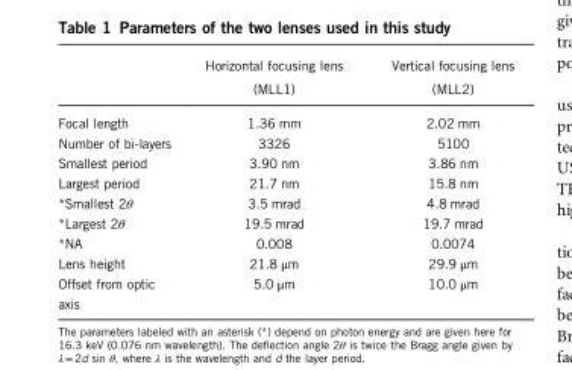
<table><thead><tr><td></td><td>Horizontal focusing lens (MLL1)</td><td>Vertical focusing lens (MLL2)</td></tr></thead><tbody><tr><td>Focal length</td><td>1.36 mm</td><td>2.02 mm</td></tr><tr><td>Number of bi-layers</td><td>3326</td><td>5100</td></tr><tr><td>Smallest period</td><td>3.90 nm</td><td>3.86 nm</td></tr><tr><td>Largest period</td><td>21.7 nm</td><td>15.8 nm</td></tr><tr><td>*Smallest 2θ</td><td>3.5 mrad</td><td>4.8 mrad</td></tr><tr><td>*Largest 2θ</td><td>19.5 mrad</td><td>19.7 mrad</td></tr><tr><td>*NA</td><td>0.008</td><td>0.0074</td></tr><tr><td>Lens height</td><td>21.8 μm</td><td>29.9 μm</td></tr><tr><td>Offset from optic axis</td><td>5.0 μm</td><td>10.0 μm</td></tr></tbody></table>